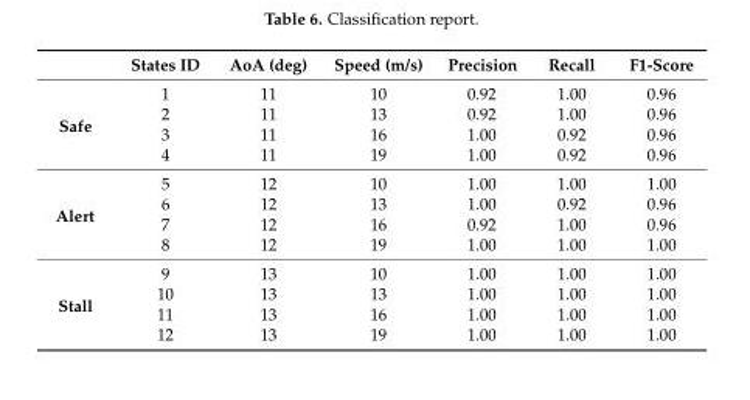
<table><thead><tr><td></td><td>States ID</td><td>AoA (deg)</td><td>Speed (m/s)</td><td>Precision</td><td>Recall</td><td>F1-Score</td></tr></thead><tbody><tr><td rowspan="4">Safe</td><td>1</td><td>11</td><td>10</td><td>0.92</td><td>1.00</td><td>0.96</td></tr><tr><td>2</td><td>11</td><td>13</td><td>0.92</td><td>1.00</td><td>0.96</td></tr><tr><td>3</td><td>11</td><td>16</td><td>1.00</td><td>0.92</td><td>0.96</td></tr><tr><td>4</td><td>11</td><td>19</td><td>1.00</td><td>0.92</td><td>0.96</td></tr><tr><td rowspan="4">Alert</td><td>5</td><td>12</td><td>10</td><td>1.00</td><td>1.00</td><td>1.00</td></tr><tr><td>6</td><td>12</td><td>13</td><td>1.00</td><td>0.92</td><td>0.96</td></tr><tr><td>7</td><td>12</td><td>16</td><td>0.92</td><td>1.00</td><td>0.96</td></tr><tr><td>8</td><td>12</td><td>19</td><td>1.00</td><td>1.00</td><td>1.00</td></tr><tr><td rowspan="4">Stall</td><td>9</td><td>13</td><td>10</td><td>1.00</td><td>1.00</td><td>1.00</td></tr><tr><td>10</td><td>13</td><td>13</td><td>1.00</td><td>1.00</td><td>1.00</td></tr><tr><td>11</td><td>13</td><td>16</td><td>1.00</td><td>1.00</td><td>1.00</td></tr><tr><td>12</td><td>13</td><td>19</td><td>1.00</td><td>1.00</td><td>1.00</td></tr></tbody></table>